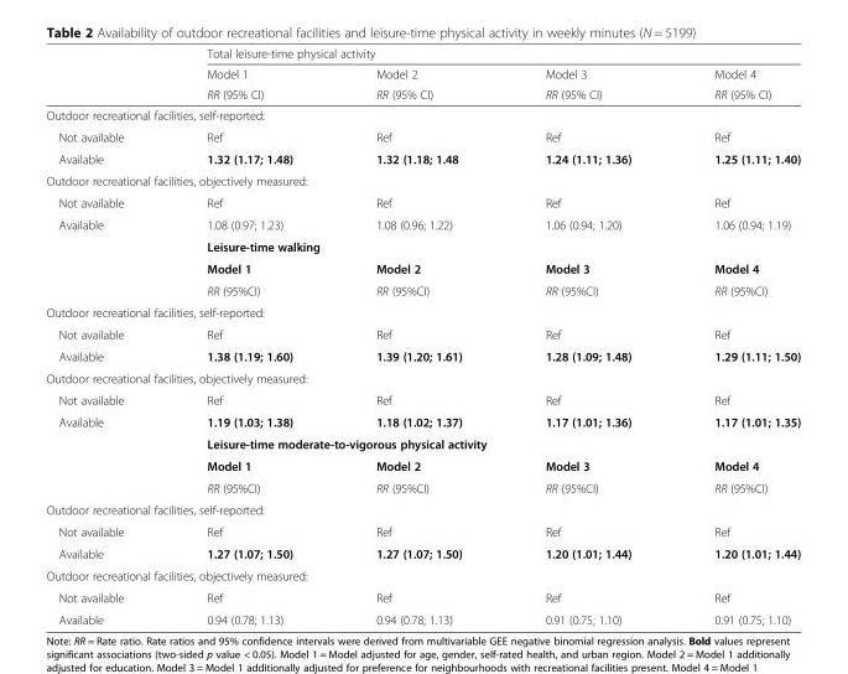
<table><thead><tr><td rowspan="3"></td><td colspan="4">Total leisure-time physical activity</td></tr><tr><td rowspan="2">Model 1 RR (95% CI)</td><td rowspan="2">Model 2 RR (95% CI)</td><td rowspan="2">Model 3 RR (95% CI)</td><td rowspan="2">Model 4 RR (95% CI)</td></tr><tr></tr></thead><tbody><tr><td colspan="5">Outdoor recreational facilities, self-reported:</td></tr><tr><td>Not available</td><td>Ref</td><td>Ref</td><td>Ref</td><td>Ref</td></tr><tr><td>Available</td><td>1.32 (1.17; 1.48)</td><td>1.32 (1.18; 1.48</td><td>1.24 (1.11; 1.36)</td><td>1.25 (1.11; 1.40)</td></tr><tr><td colspan="5">Outdoor recreational facilities, objectively measured:</td></tr><tr><td>Not available</td><td>Ref</td><td>Ref</td><td>Ref</td><td>Ref</td></tr><tr><td rowspan="4">Available</td><td>1.08 (0.97; 1.23)</td><td>1.08 (0.96; 1.22)</td><td>1.06 (0.94; 1.20)</td><td>1.06 (0.94; 1.19)</td></tr><tr><td colspan="4">Leisure-time walking</td></tr><tr><td>Model 1</td><td>Model 2</td><td>Model 3</td><td>Model 4</td></tr><tr><td>RR (95%CI)</td><td>RR (95%CI)</td><td>RR (95%CI)</td><td>RR (95%CI)</td></tr><tr><td colspan="5">Outdoor recreational facilities, self-reported:</td></tr><tr><td>Not available</td><td>Ref</td><td>Ref</td><td>Ref</td><td>Ref</td></tr><tr><td>Available</td><td>1.38 (1.19; 1.60)</td><td>1.39 (1.20; 1.61)</td><td>1.28 (1.09; 1.48)</td><td>1.29 (1.11; 1.50)</td></tr><tr><td colspan="5">Outdoor recreational facilities, objectively measured:</td></tr><tr><td>Not available</td><td>Ref</td><td>Ref</td><td>Ref</td><td>Ref</td></tr><tr><td rowspan="4">Available</td><td>1.19 (1.03; 1.38)</td><td>1.18 (1.02; 1.37)</td><td>1.17 (1.01; 1.36)</td><td>1.17 (1.01; 1.35)</td></tr><tr><td colspan="4">Leisure-time moderate-to-vigorous physical activity</td></tr><tr><td>Model 1</td><td>Model 2</td><td>Model 3</td><td>Model 4</td></tr><tr><td>RR (95%CI)</td><td>RR (95%CI)</td><td>RR (95%CI)</td><td>RR (95%CI)</td></tr><tr><td colspan="5">Outdoor recreational facilities, self-reported:</td></tr><tr><td>Not available</td><td>Ref</td><td>Ref</td><td>Ref</td><td>Ref</td></tr><tr><td>Available</td><td>1.27 (1.07; 1.50)</td><td>1.27 (1.07; 1.50)</td><td>1.20 (1.01; 1.44)</td><td>1.20 (1.01; 1.44)</td></tr><tr><td colspan="5">Outdoor recreational facilities, objectively measured:</td></tr><tr><td>Not available</td><td>Ref</td><td>Ref</td><td>Ref</td><td>Ref</td></tr><tr><td>Available</td><td>0.94 (0.78; 1.13)</td><td>0.94 (0.78; 1.13)</td><td>0.91 (0.75; 1.10)</td><td>0.91 (0.75; 1.10)</td></tr></tbody></table>